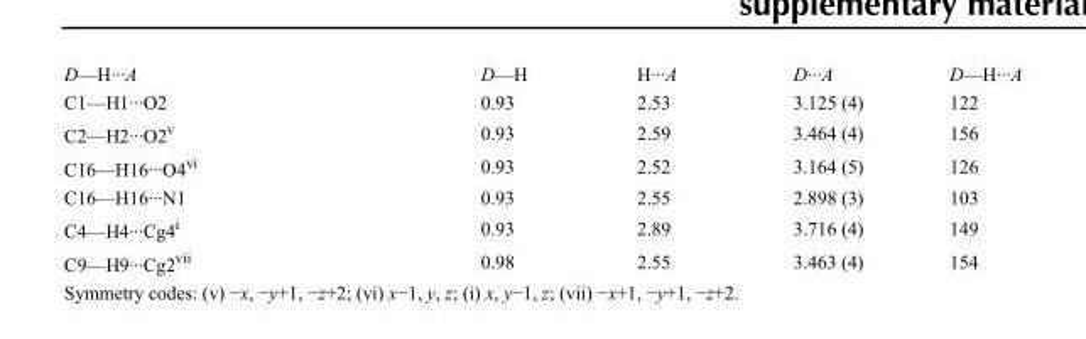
<table><tbody><tr><td>D—H···A</td><td>D—H</td><td>H···A</td><td>D···A</td><td>D—H···A</td></tr><tr><td>C1—H1···O2</td><td>0.93</td><td>2.53</td><td>3.125 (4)</td><td>122</td></tr><tr><td>C2—H2···O2<sup>v</sup></td><td>0.93</td><td>2.59</td><td>3.464 (4)</td><td>156</td></tr><tr><td>C16—H16···O4<sup>vi</sup></td><td>0.93</td><td>2.52</td><td>3.164 (5)</td><td>126</td></tr><tr><td>C16—H16···N1</td><td>0.93</td><td>2.55</td><td>2.898 (3)</td><td>103</td></tr><tr><td>C4—H4···Cg4<sup>i</sup></td><td>0.93</td><td>2.89</td><td>3.716 (4)</td><td>149</td></tr><tr><td>C9—H9···Cg2<sup>vii</sup></td><td>0.98</td><td>2.55</td><td>3.463 (4)</td><td>154</td></tr></tbody></table>